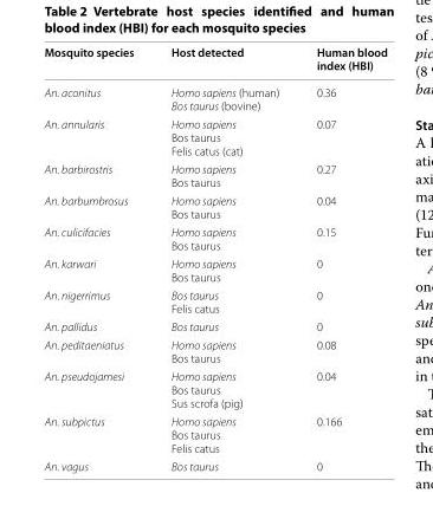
<table><thead><tr><td>Mosquito species</td><td>Host detected</td><td>Human blood index (HBI)</td></tr></thead><tbody><tr><td>An. aconitus</td><td>Homo sapiens (human) Bos taurus (bovine)</td><td>0.36</td></tr><tr><td>An. annularis</td><td>Homo sapiens Bos taurus Felis catus (cat)</td><td>0.07</td></tr><tr><td>An. barbirostris</td><td>Homo sapiens Bos taurus</td><td>0.27</td></tr><tr><td>An. barbumbrosus</td><td>Homo sapiens Bos taurus</td><td>0.04</td></tr><tr><td>An. culicifacies</td><td>Homo sapiens Bos taurus</td><td>0.15</td></tr><tr><td>An. karwari</td><td>Homo sapiens Bos taurus</td><td>0</td></tr><tr><td>An. nigerrimus</td><td>Bos taurus Felis catus</td><td>0</td></tr><tr><td>An. pallidus</td><td>Bos taurus</td><td>0</td></tr><tr><td>An. peditaeniatus</td><td>Homo sapiens Bos taurus</td><td>0.08</td></tr><tr><td>An. pseudojamesi</td><td>Homo sapiens Bos taurus Sus scrofa (pig)</td><td>0.04</td></tr><tr><td>An. subpictus</td><td>Homo sapiens Bos taurus Felis catus</td><td>0.166</td></tr><tr><td>An. vagus</td><td>Bos taurus</td><td>0</td></tr></tbody></table>